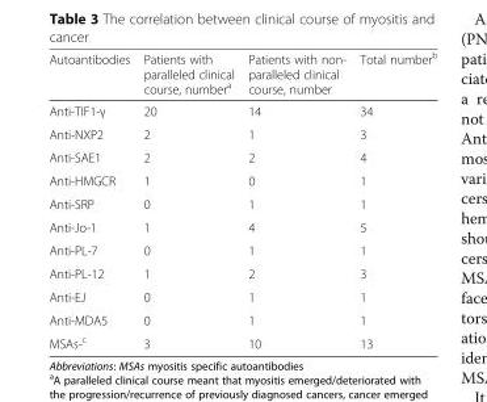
<table><thead><tr><td>Autoantibodies</td><td>Patients with paralleled clinical course, number<sup>a</sup></td><td>Patients with non- paralleled clinical course, number</td><td>Total number<sup>b</sup></td></tr></thead><tbody><tr><td>Anti-TIF1-γ</td><td>20</td><td>14</td><td>34</td></tr><tr><td>Anti-NXP2</td><td>2</td><td>1</td><td>3</td></tr><tr><td>Anti-SAE1</td><td>2</td><td>2</td><td>4</td></tr><tr><td>Anti-HMGCR</td><td>1</td><td>0</td><td>1</td></tr><tr><td>Anti-SRP</td><td>0</td><td>1</td><td>1</td></tr><tr><td>Anti-Jo-1</td><td>1</td><td>4</td><td>5</td></tr><tr><td>Anti-PL-7</td><td>0</td><td>1</td><td>1</td></tr><tr><td>Anti-PL-12</td><td>1</td><td>2</td><td>3</td></tr><tr><td>Anti-EJ</td><td>0</td><td>1</td><td>1</td></tr><tr><td>Anti-MDA5</td><td>0</td><td>1</td><td>1</td></tr><tr><td>MSAs-<sup>c</sup></td><td>3</td><td>10</td><td>13</td></tr></tbody></table>